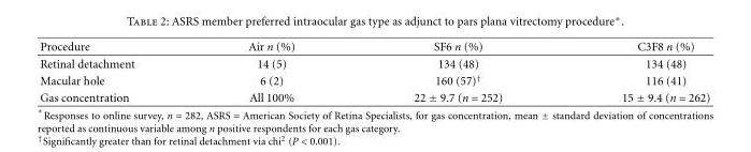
<table><thead><tr><td>Procedure</td><td>Air n (%)</td><td>SF6 n (%)</td><td>C3F8 n (%)</td></tr></thead><tbody><tr><td>Retinal detachment</td><td>14 (5)</td><td>134 (48)</td><td>134 (48)</td></tr><tr><td>Macular hole</td><td>6 (2)</td><td>160 (57)<sup>†</sup></td><td>116 (41)</td></tr><tr><td>Gas concentration</td><td>All 100%</td><td>22 ± 9.7 (n = 252)</td><td>15 ± 9.4 (n = 262)</td></tr></tbody></table>